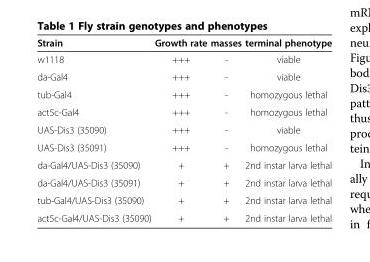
<table><thead><tr><td>Strain</td><td>Growth rate</td><td>masses</td><td>terminal phenotype</td></tr></thead><tbody><tr><td>w1118</td><td>+++</td><td>-</td><td>viable</td></tr><tr><td>da-Gal4</td><td>+++</td><td>-</td><td>viable</td></tr><tr><td>tub-Gal4</td><td>+++</td><td>-</td><td>homozygous lethal</td></tr><tr><td>act5c-Gal4</td><td>+++</td><td>-</td><td>homozygous lethal</td></tr><tr><td>UAS-Dis3 (35090)</td><td>+++</td><td>-</td><td>viable</td></tr><tr><td>UAS-Dis3 (35091)</td><td>+++</td><td>-</td><td>homozygous lethal</td></tr><tr><td>da-Gal4/UAS-Dis3 (35090)</td><td>+</td><td>+</td><td>2nd instar larva lethal</td></tr><tr><td>da-Gal4/UAS-Dis3 (35091)</td><td>+</td><td>+</td><td>2nd instar larva lethal</td></tr><tr><td>tub-Gal4/UAS-Dis3 (35090)</td><td>+</td><td>+</td><td>2nd instar larva lethal</td></tr><tr><td>act5c-Gal4/UAS-Dis3 (35090)</td><td>+</td><td>+</td><td>2nd instar larva lethal</td></tr></tbody></table>